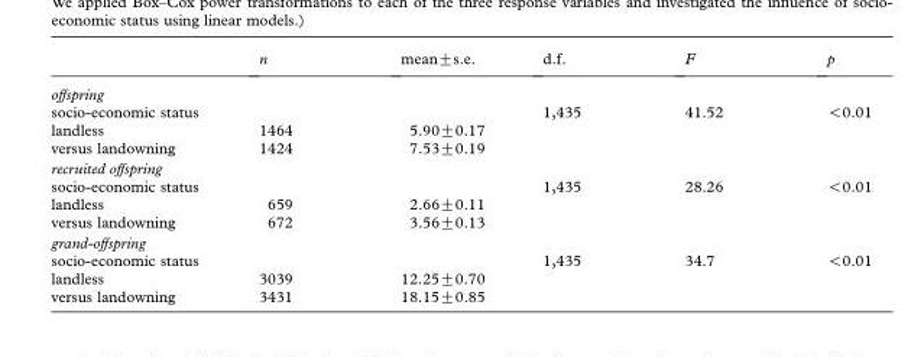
<table><thead><tr><td></td><td>n</td><td>mean±s.e.</td><td>d.f.</td><td>F</td><td>p</td></tr></thead><tbody><tr><td colspan="6">offspring</td></tr><tr><td>socio-economic status</td><td></td><td></td><td>1,435</td><td>41.52</td><td>&lt;0.01</td></tr><tr><td>landless</td><td>1464</td><td>5.90±0.17</td><td></td><td></td><td></td></tr><tr><td>versus landowning</td><td>1424</td><td>7.53±0.19</td><td></td><td></td><td></td></tr><tr><td colspan="6">recruited offspring</td></tr><tr><td>socio-economic status</td><td></td><td></td><td>1,435</td><td>28.26</td><td>&lt;0.01</td></tr><tr><td>landless</td><td>659</td><td>2.66±0.11</td><td></td><td></td><td></td></tr><tr><td>versus landowning</td><td>672</td><td>3.56±0.13</td><td></td><td></td><td></td></tr><tr><td colspan="6">grand-offspring</td></tr><tr><td>socio-economic status</td><td></td><td></td><td>1,435</td><td>34.7</td><td>&lt;0.01</td></tr><tr><td>landless</td><td>3039</td><td>12.25±0.70</td><td></td><td></td><td></td></tr><tr><td>versus landowning</td><td>3431</td><td>18.15±0.85</td><td></td><td></td><td></td></tr></tbody></table>